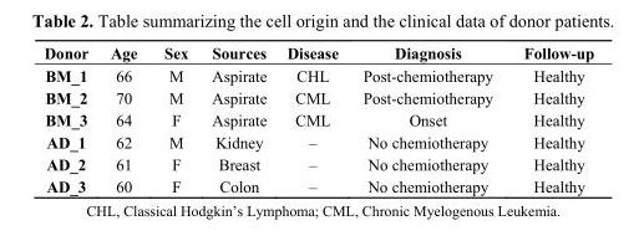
<table><thead><tr><td>Donor</td><td>Age</td><td>Sex</td><td>Sources</td><td>Disease</td><td>Diagnosis</td><td>Follow-up</td></tr></thead><tbody><tr><td>BM_1</td><td>66</td><td>M</td><td>Aspirate</td><td>CHL</td><td>Post-chemiotherapy</td><td>Healthy</td></tr><tr><td>BM_2</td><td>70</td><td>M</td><td>Aspirate</td><td>CML</td><td>Post-chemiotherapy</td><td>Healthy</td></tr><tr><td>BM_3</td><td>64</td><td>F</td><td>Aspirate</td><td>CML</td><td>Onset</td><td>Healthy</td></tr><tr><td>AD_1</td><td>62</td><td>M</td><td>Kidney</td><td>–</td><td>No chemiotherapy</td><td>Healthy</td></tr><tr><td>AD_2</td><td>61</td><td>F</td><td>Breast</td><td>–</td><td>No chemiotherapy</td><td>Healthy</td></tr><tr><td>AD_3</td><td>60</td><td>F</td><td>Colon</td><td>–</td><td>No chemiotherapy</td><td>Healthy</td></tr></tbody></table>